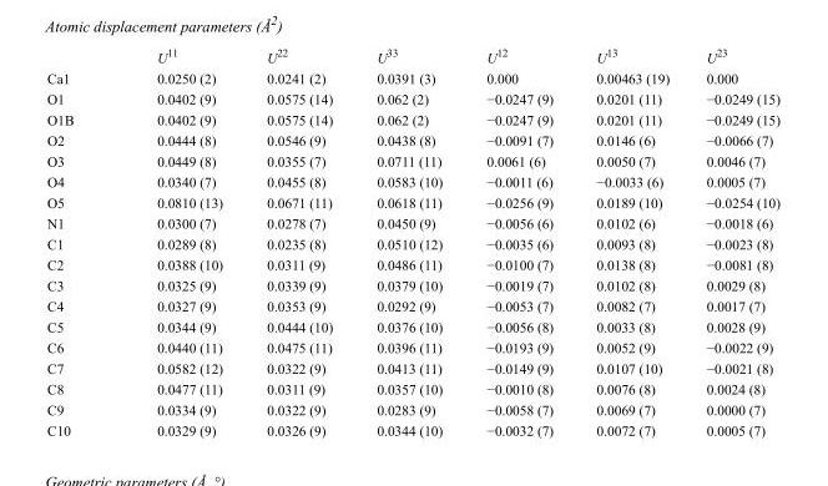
<table><thead><tr><td></td><td>U<sup>11</sup></td><td>U<sup>22</sup></td><td>U<sup>33</sup></td><td>U<sup>12</sup></td><td>U<sup>13</sup></td><td>U<sup>23</sup></td></tr></thead><tbody><tr><td>Ca1</td><td>0.0250 (2)</td><td>0.0241 (2)</td><td>0.0391 (3)</td><td>0.000</td><td>0.00463 (19)</td><td>0.000</td></tr><tr><td>O1</td><td>0.0402 (9)</td><td>0.0575 (14)</td><td>0.062 (2)</td><td>−0.0247 (9)</td><td>0.0201 (11)</td><td>−0.0249 (15)</td></tr><tr><td>O1B</td><td>0.0402 (9)</td><td>0.0575 (14)</td><td>0.062 (2)</td><td>−0.0247 (9)</td><td>0.0201 (11)</td><td>−0.0249 (15)</td></tr><tr><td>O2</td><td>0.0444 (8)</td><td>0.0546 (9)</td><td>0.0438 (8)</td><td>−0.0091 (7)</td><td>0.0146 (6)</td><td>−0.0066 (7)</td></tr><tr><td>O3</td><td>0.0449 (8)</td><td>0.0355 (7)</td><td>0.0711 (11)</td><td>0.0061 (6)</td><td>0.0050 (7)</td><td>0.0046 (7)</td></tr><tr><td>O4</td><td>0.0340 (7)</td><td>0.0455 (8)</td><td>0.0583 (10)</td><td>−0.0011 (6)</td><td>−0.0033 (6)</td><td>0.0005 (7)</td></tr><tr><td>O5</td><td>0.0810 (13)</td><td>0.0671 (11)</td><td>0.0618 (11)</td><td>−0.0256 (9)</td><td>0.0189 (10)</td><td>−0.0254 (10)</td></tr><tr><td>N1</td><td>0.0300 (7)</td><td>0.0278 (7)</td><td>0.0450 (9)</td><td>−0.0056 (6)</td><td>0.0102 (6)</td><td>−0.0018 (6)</td></tr><tr><td>C1</td><td>0.0289 (8)</td><td>0.0235 (8)</td><td>0.0510 (12)</td><td>−0.0035 (6)</td><td>0.0093 (8)</td><td>−0.0023 (8)</td></tr><tr><td>C2</td><td>0.0388 (10)</td><td>0.0311 (9)</td><td>0.0486 (11)</td><td>−0.0100 (7)</td><td>0.0138 (8)</td><td>−0.0081 (8)</td></tr><tr><td>C3</td><td>0.0325 (9)</td><td>0.0339 (9)</td><td>0.0379 (10)</td><td>−0.0019 (7)</td><td>0.0102 (8)</td><td>0.0029 (8)</td></tr><tr><td>C4</td><td>0.0327 (9)</td><td>0.0353 (9)</td><td>0.0292 (9)</td><td>−0.0053 (7)</td><td>0.0082 (7)</td><td>0.0017 (7)</td></tr><tr><td>C5</td><td>0.0344 (9)</td><td>0.0444 (10)</td><td>0.0376 (10)</td><td>−0.0056 (8)</td><td>0.0033 (8)</td><td>0.0028 (9)</td></tr><tr><td>C6</td><td>0.0440 (11)</td><td>0.0475 (11)</td><td>0.0396 (11)</td><td>−0.0193 (9)</td><td>0.0052 (9)</td><td>−0.0022 (9)</td></tr><tr><td>C7</td><td>0.0582 (12)</td><td>0.0322 (9)</td><td>0.0413 (11)</td><td>−0.0149 (9)</td><td>0.0107 (10)</td><td>−0.0021 (8)</td></tr><tr><td>C8</td><td>0.0477 (11)</td><td>0.0311 (9)</td><td>0.0357 (10)</td><td>−0.0010 (8)</td><td>0.0076 (8)</td><td>0.0024 (8)</td></tr><tr><td>C9</td><td>0.0334 (9)</td><td>0.0322 (9)</td><td>0.0283 (9)</td><td>−0.0058 (7)</td><td>0.0069 (7)</td><td>0.0000 (7)</td></tr><tr><td>C10</td><td>0.0329 (9)</td><td>0.0326 (9)</td><td>0.0344 (10)</td><td>−0.0032 (7)</td><td>0.0072 (7)</td><td>0.0005 (7)</td></tr></tbody></table>